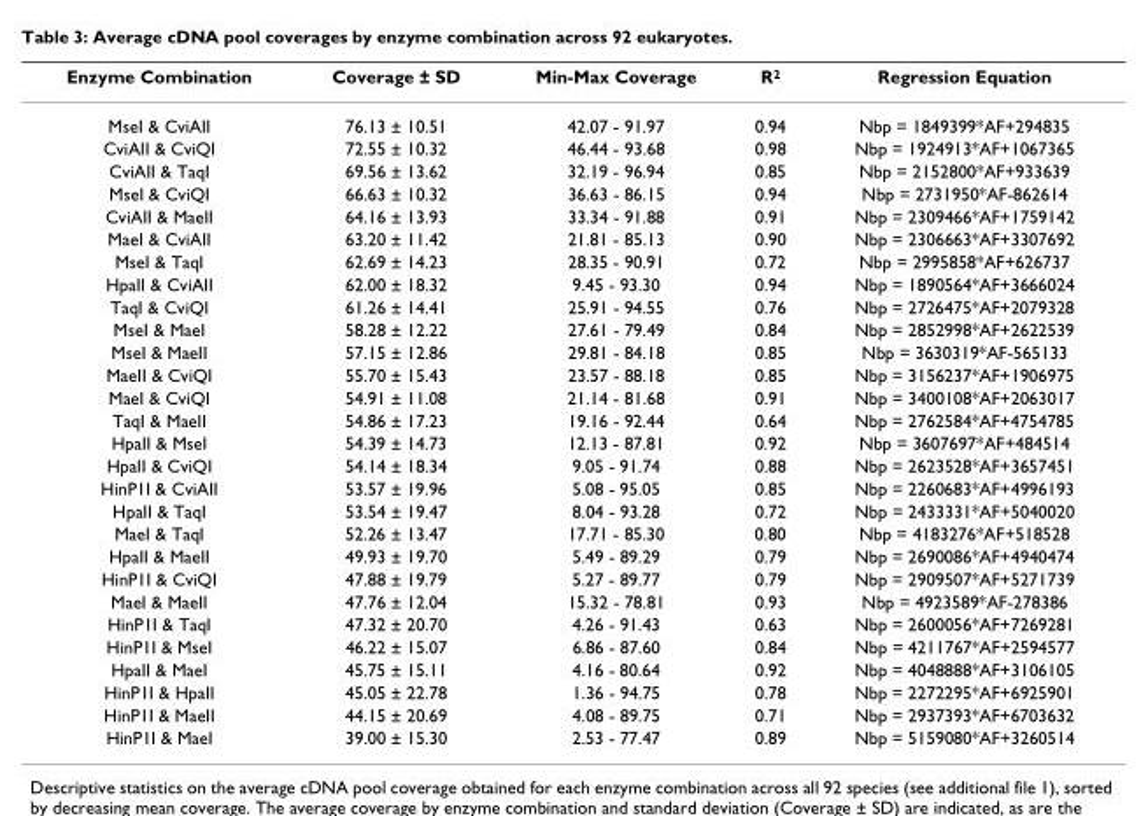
<table><thead><tr><td>Enzyme Combination</td><td>Coverage ± SD</td><td>Min-Max Coverage</td><td>R<sup>2</sup></td><td>Regression Equation</td></tr></thead><tbody><tr><td>MseI &amp; CviAII</td><td>76.13 ± 10.51</td><td>42.07 - 91.97</td><td>0.94</td><td>Nbp = 1849399*AF+294835</td></tr><tr><td>CviAII &amp; CviQI</td><td>72.55 ± 10.32</td><td>46.44 - 93.68</td><td>0.98</td><td>Nbp = 1924913*AF+1067365</td></tr><tr><td>CviAII &amp; TaqI</td><td>69.56 ± 13.62</td><td>32.19 - 96.94</td><td>0.85</td><td>Nbp = 2152800*AF+933639</td></tr><tr><td>MseI &amp; CviQI</td><td>66.63 ± 10.32</td><td>36.63 - 86.15</td><td>0.94</td><td>Nbp = 2731950*AF-862614</td></tr><tr><td>CviAII &amp; MaeII</td><td>64.16 ± 13.93</td><td>33.34 - 91.88</td><td>0.91</td><td>Nbp = 2309466*AF+1759142</td></tr><tr><td>MaeI &amp; CviAII</td><td>63.20 ± 11.42</td><td>21.81 - 85.13</td><td>0.90</td><td>Nbp = 2306663*AF+3307692</td></tr><tr><td>MseI &amp; TaqI</td><td>62.69 ± 14.23</td><td>28.35 - 90.91</td><td>0.72</td><td>Nbp = 2995858*AF+626737</td></tr><tr><td>HpaII &amp; CviAII</td><td>62.00 ± 18.32</td><td>9.45 - 93.30</td><td>0.94</td><td>Nbp = 1890564*AF+3666024</td></tr><tr><td>TaqI &amp; CviQI</td><td>61.26 ± 14.41</td><td>25.91 - 94.55</td><td>0.76</td><td>Nbp = 2726475*AF+2079328</td></tr><tr><td>MseI &amp; MaeI</td><td>58.28 ± 12.22</td><td>27.61 - 79.49</td><td>0.84</td><td>Nbp = 2852998*AF+2622539</td></tr><tr><td>MseI &amp; MaeII</td><td>57.15 ± 12.86</td><td>29.81 - 84.18</td><td>0.85</td><td>Nbp = 3630319*AF-565133</td></tr><tr><td>MaeII &amp; CviQI</td><td>55.70 ± 15.43</td><td>23.57 - 88.18</td><td>0.85</td><td>Nbp = 3156237*AF+1906975</td></tr><tr><td>MaeI &amp; CviQI</td><td>54.91 ± 11.08</td><td>21.14 - 81.68</td><td>0.91</td><td>Nbp = 3400108*AF+2063017</td></tr><tr><td>TaqI &amp; MaeII</td><td>54.86 ± 17.23</td><td>19.16 - 92.44</td><td>0.64</td><td>Nbp = 2762584*AF+4754785</td></tr><tr><td>HpaII &amp; MseI</td><td>54.39 ± 14.73</td><td>12.13 - 87.81</td><td>0.92</td><td>Nbp = 3607697*AF+484514</td></tr><tr><td>HpaII &amp; CviQI</td><td>54.14 ± 18.34</td><td>9.05 - 91.74</td><td>0.88</td><td>Nbp = 2623528*AF+3657451</td></tr><tr><td>HinP1I &amp; CviAII</td><td>53.57 ± 19.96</td><td>5.08 - 95.05</td><td>0.85</td><td>Nbp = 2260683*AF+4996193</td></tr><tr><td>HpaII &amp; TaqI</td><td>53.54 ± 19.47</td><td>8.04 - 93.28</td><td>0.72</td><td>Nbp = 2433331*AF+5040020</td></tr><tr><td>MaeI &amp; TaqI</td><td>52.26 ± 13.47</td><td>17.71 - 85.30</td><td>0.80</td><td>Nbp = 4183276*AF+518528</td></tr><tr><td>HpaII &amp; MaeII</td><td>49.93 ± 19.70</td><td>5.49 - 89.29</td><td>0.79</td><td>Nbp = 2690086*AF+4940474</td></tr><tr><td>HinP1I &amp; CviQI</td><td>47.88 ± 19.79</td><td>5.27 - 89.77</td><td>0.79</td><td>Nbp = 2909507*AF+5271739</td></tr><tr><td>MaeI &amp; MaeII</td><td>47.76 ± 12.04</td><td>15.32 - 78.81</td><td>0.93</td><td>Nbp = 4923589*AF-278386</td></tr><tr><td>HinP1I &amp; TaqI</td><td>47.32 ± 20.70</td><td>4.26 - 91.43</td><td>0.63</td><td>Nbp = 2600056*AF+7269281</td></tr><tr><td>HinP1I &amp; MseI</td><td>46.22 ± 15.07</td><td>6.86 - 87.60</td><td>0.84</td><td>Nbp = 4211767*AF+2594577</td></tr><tr><td>HpaII &amp; MaeI</td><td>45.75 ± 15.11</td><td>4.16 - 80.64</td><td>0.92</td><td>Nbp = 4048888*AF+3106105</td></tr><tr><td>HinP1I &amp; HpaII</td><td>45.05 ± 22.78</td><td>1.36 - 94.75</td><td>0.78</td><td>Nbp = 2272295*AF+6925901</td></tr><tr><td>HinP1I &amp; MaeII</td><td>44.15 ± 20.69</td><td>4.08 - 89.75</td><td>0.71</td><td>Nbp = 2937393*AF+6703632</td></tr><tr><td>HinP1I &amp; MaeI</td><td>39.00 ± 15.30</td><td>2.53 - 77.47</td><td>0.89</td><td>Nbp = 5159080*AF+3260514</td></tr></tbody></table>